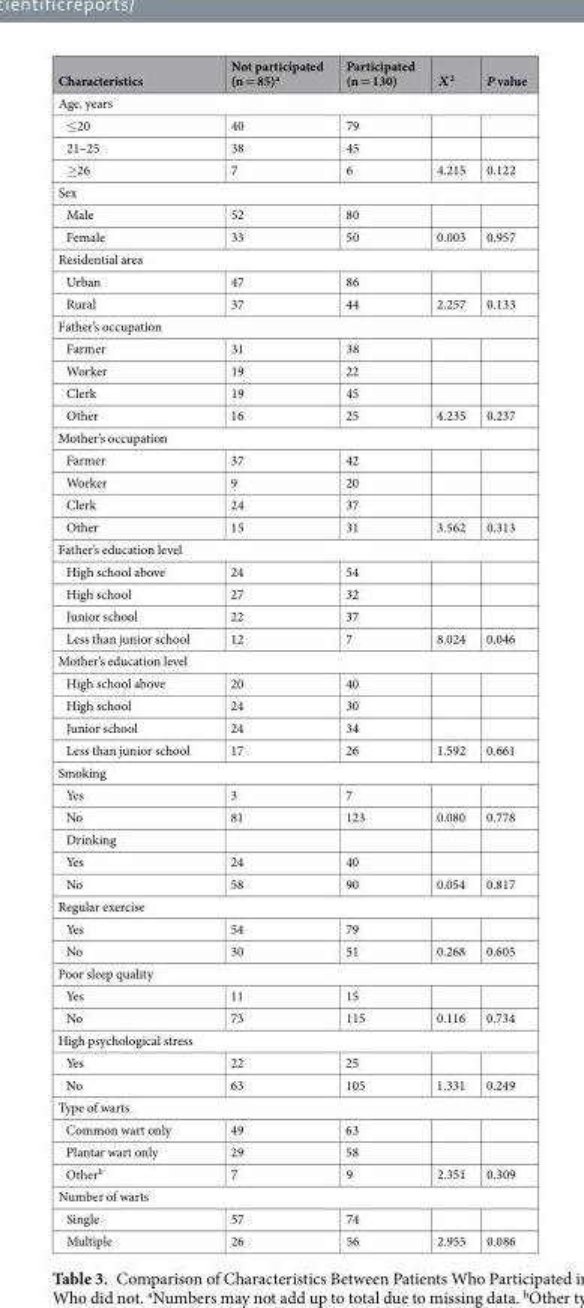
<table><thead><tr><td>Characteristics</td><td>Not participated (n = 85)<sup>a</sup></td><td>Participated (n = 130)</td><td>Χ<sup>2</sup></td><td>P value</td></tr></thead><tbody><tr><td colspan="5">Age, years</td></tr><tr><td>≤20</td><td>40</td><td>79</td><td></td><td></td></tr><tr><td>21–25</td><td>38</td><td>45</td><td></td><td></td></tr><tr><td>≥26</td><td>7</td><td>6</td><td>4.215</td><td>0.122</td></tr><tr><td colspan="5">Sex</td></tr><tr><td>Male</td><td>52</td><td>80</td><td></td><td></td></tr><tr><td>Female</td><td>33</td><td>50</td><td>0.003</td><td>0.957</td></tr><tr><td colspan="5">Residential area</td></tr><tr><td>Urban</td><td>47</td><td>86</td><td></td><td></td></tr><tr><td>Rural</td><td>37</td><td>44</td><td>2.257</td><td>0.133</td></tr><tr><td colspan="5">Father’s occupation</td></tr><tr><td>Farmer</td><td>31</td><td>38</td><td></td><td></td></tr><tr><td>Worker</td><td>19</td><td>22</td><td></td><td></td></tr><tr><td>Clerk</td><td>19</td><td>45</td><td></td><td></td></tr><tr><td>Other</td><td>16</td><td>25</td><td>4.235</td><td>0.237</td></tr><tr><td colspan="5">Mother’s occupation</td></tr><tr><td>Farmer</td><td>37</td><td>42</td><td></td><td></td></tr><tr><td>Worker</td><td>9</td><td>20</td><td></td><td></td></tr><tr><td>Clerk</td><td>24</td><td>37</td><td></td><td></td></tr><tr><td>Other</td><td>15</td><td>31</td><td>3.562</td><td>0.313</td></tr><tr><td colspan="5">Father’s education level</td></tr><tr><td>High school above</td><td>24</td><td>54</td><td></td><td></td></tr><tr><td>High school</td><td>27</td><td>32</td><td></td><td></td></tr><tr><td>Junior school</td><td>22</td><td>37</td><td></td><td></td></tr><tr><td>Less than junior school</td><td>12</td><td>7</td><td>8.024</td><td>0.046</td></tr><tr><td colspan="5">Mother’s education level</td></tr><tr><td>High school above</td><td>20</td><td>40</td><td></td><td></td></tr><tr><td>High school</td><td>24</td><td>30</td><td></td><td></td></tr><tr><td>Junior school</td><td>24</td><td>34</td><td></td><td></td></tr><tr><td>Less than junior school</td><td>17</td><td>26</td><td>1.592</td><td>0.661</td></tr><tr><td colspan="5">Smoking</td></tr><tr><td>Yes</td><td>3</td><td>7</td><td></td><td></td></tr><tr><td>No</td><td>81</td><td>123</td><td>0.080</td><td>0.778</td></tr><tr><td colspan="5">Drinking</td></tr><tr><td>Yes</td><td>24</td><td>40</td><td></td><td></td></tr><tr><td>No</td><td>58</td><td>90</td><td>0.054</td><td>0.817</td></tr><tr><td colspan="5">Regular exercise</td></tr><tr><td>Yes</td><td>54</td><td>79</td><td></td><td></td></tr><tr><td>No</td><td>30</td><td>51</td><td>0.268</td><td>0.605</td></tr><tr><td colspan="5">Poor sleep quality</td></tr><tr><td>Yes</td><td>11</td><td>15</td><td></td><td></td></tr><tr><td>No</td><td>73</td><td>115</td><td>0.116</td><td>0.734</td></tr><tr><td colspan="5">High psychological stress</td></tr><tr><td>Yes</td><td>22</td><td>25</td><td></td><td></td></tr><tr><td>No</td><td>63</td><td>105</td><td>1.331</td><td>0.249</td></tr><tr><td colspan="5">Type of warts</td></tr><tr><td>Common wart only</td><td>49</td><td>63</td><td></td><td></td></tr><tr><td>Plantar wart only</td><td>29</td><td>58</td><td></td><td></td></tr><tr><td>Other<sup>b</sup></td><td>7</td><td>9</td><td>2.351</td><td>0.309</td></tr><tr><td colspan="5">Number of warts</td></tr><tr><td>Single</td><td>57</td><td>74</td><td></td><td></td></tr><tr><td>Multiple</td><td>26</td><td>56</td><td>2.955</td><td>0.086</td></tr></tbody></table>